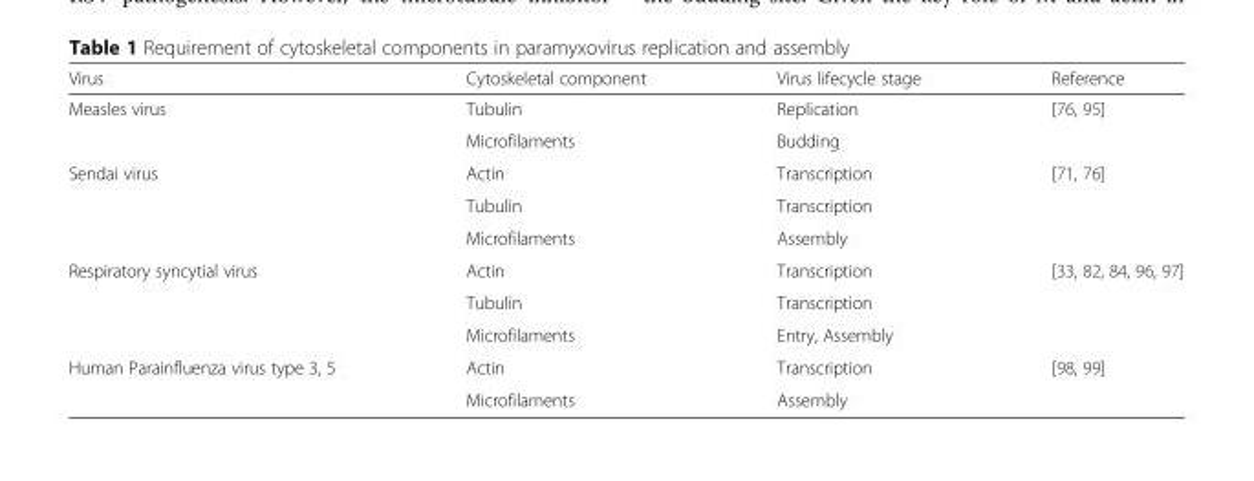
<table><thead><tr><td>Virus</td><td>Cytoskeletal component</td><td>Virus lifecycle stage</td><td>Reference</td></tr></thead><tbody><tr><td rowspan="2">Measles virus</td><td>Tubulin</td><td>Replication</td><td rowspan="2">[76, 95]</td></tr><tr><td>Microfilaments</td><td>Budding</td></tr><tr><td rowspan="3">Sendai virus</td><td>Actin</td><td>Transcription</td><td rowspan="3">[71, 76]</td></tr><tr><td>Tubulin</td><td>Transcription</td></tr><tr><td>Microfilaments</td><td>Assembly</td></tr><tr><td rowspan="3">Respiratory syncytial virus</td><td>Actin</td><td>Transcription</td><td rowspan="3">[33, 82, 84, 96, 97]</td></tr><tr><td>Tubulin</td><td>Transcription</td></tr><tr><td>Microfilaments</td><td>Entry, Assembly</td></tr><tr><td rowspan="2">Human Parainfluenza virus type 3, 5</td><td>Actin</td><td>Transcription</td><td rowspan="2">[98, 99]</td></tr><tr><td>Microfilaments</td><td>Assembly</td></tr></tbody></table>